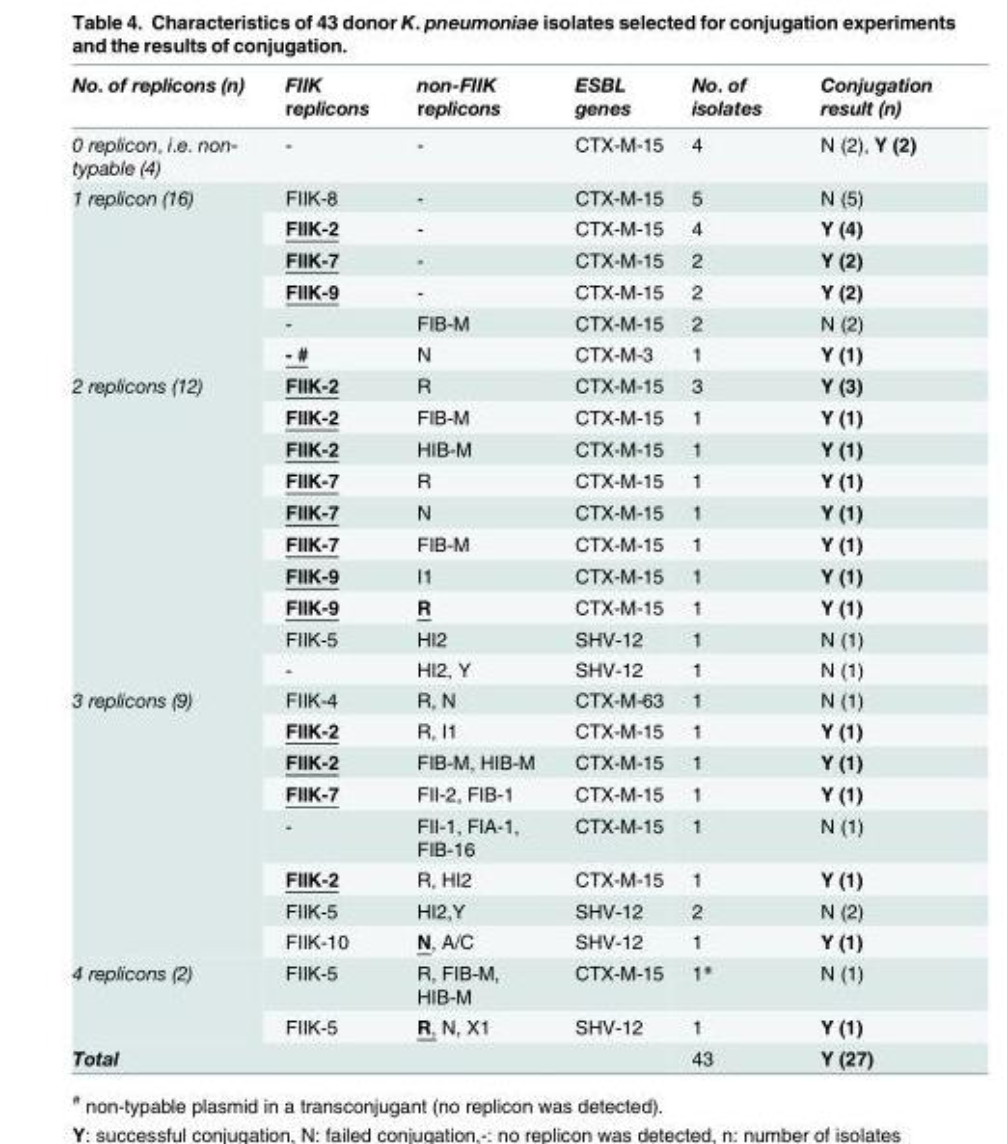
<table><thead><tr><td>No. of replicons (n)</td><td>FIIK replicons</td><td>non-FIIK replicons</td><td>ESBL genes</td><td>No. of isolates</td><td>Conjugation result (n)</td></tr></thead><tbody><tr><td>0 replicon, i.e. non- typable (4)</td><td>-</td><td>-</td><td>CTX-M-15</td><td>4</td><td>N (2), Y (2)</td></tr><tr><td rowspan="6">1 replicon (16)</td><td>FIIK-8</td><td>-</td><td>CTX-M-15</td><td>5</td><td>N (5)</td></tr><tr><td>FIIK-2</td><td>-</td><td>CTX-M-15</td><td>4</td><td>Y (4)</td></tr><tr><td>FIIK-7</td><td>-</td><td>CTX-M-15</td><td>2</td><td>Y (2)</td></tr><tr><td>FIIK-9</td><td>-</td><td>CTX-M-15</td><td>2</td><td>Y (2)</td></tr><tr><td>-</td><td>FIB-M</td><td>CTX-M-15</td><td>2</td><td>N (2)</td></tr><tr><td>- #</td><td>N</td><td>CTX-M-3</td><td>1</td><td>Y (1)</td></tr><tr><td rowspan="10">2 replicons (12)</td><td>FIIK-2</td><td>R</td><td>CTX-M-15</td><td>3</td><td>Y (3)</td></tr><tr><td>FIIK-2</td><td>FIB-M</td><td>CTX-M-15</td><td>1</td><td>Y (1)</td></tr><tr><td>FIIK-2</td><td>HIB-M</td><td>CTX-M-15</td><td>1</td><td>Y (1)</td></tr><tr><td>FIIK-7</td><td>R</td><td>CTX-M-15</td><td>1</td><td>Y (1)</td></tr><tr><td>FIIK-7</td><td>N</td><td>CTX-M-15</td><td>1</td><td>Y (1)</td></tr><tr><td>FIIK-7</td><td>FIB-M</td><td>CTX-M-15</td><td>1</td><td>Y (1)</td></tr><tr><td>FIIK-9</td><td>I1</td><td>CTX-M-15</td><td>1</td><td>Y (1)</td></tr><tr><td>FIIK-9</td><td>R</td><td>CTX-M-15</td><td>1</td><td>Y (1)</td></tr><tr><td>FIIK-5</td><td>HI2</td><td>SHV-12</td><td>1</td><td>N (1)</td></tr><tr><td>-</td><td>HI2, Y</td><td>SHV-12</td><td>1</td><td>N (1)</td></tr><tr><td rowspan="8">3 replicons (9)</td><td>FIIK-4</td><td>R, N</td><td>CTX-M-63</td><td>1</td><td>N (1)</td></tr><tr><td>FIIK-2</td><td>R, I1</td><td>CTX-M-15</td><td>1</td><td>Y (1)</td></tr><tr><td>FIIK-2</td><td>FIB-M, HIB-M</td><td>CTX-M-15</td><td>1</td><td>Y (1)</td></tr><tr><td>FIIK-7</td><td>FII-2, FIB-1</td><td>CTX-M-15</td><td>1</td><td>Y (1)</td></tr><tr><td>-</td><td>FII-1, FIA-1, FIB-16</td><td>CTX-M-15</td><td>1</td><td>N (1)</td></tr><tr><td>FIIK-2</td><td>R, HI2</td><td>CTX-M-15</td><td>1</td><td>Y (1)</td></tr><tr><td>FIIK-5</td><td>HI2,Y</td><td>SHV-12</td><td>2</td><td>N (2)</td></tr><tr><td>FIIK-10</td><td>N, A/C</td><td>SHV-12</td><td>1</td><td>Y (1)</td></tr><tr><td rowspan="2">4 replicons (2)</td><td>FIIK-5</td><td>R, FIB-M, HIB-M</td><td>CTX-M-15</td><td>1*</td><td>N (1)</td></tr><tr><td>FIIK-5</td><td>R, N, X1</td><td>SHV-12</td><td>1</td><td>Y (1)</td></tr><tr><td>Total</td><td></td><td></td><td></td><td>43</td><td>Y (27)</td></tr></tbody></table>